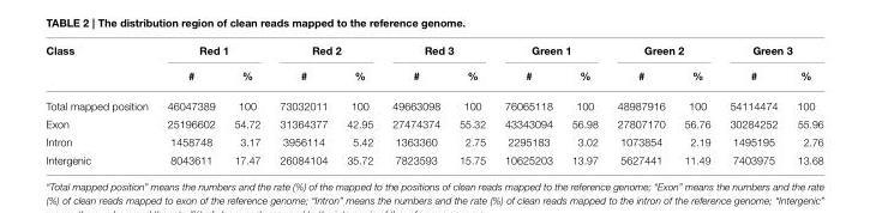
<table><thead><tr><td rowspan="2">Class</td><td colspan="2">Red 1</td><td colspan="2">Red 2</td><td colspan="2">Red 3</td><td colspan="2">Green 1</td><td colspan="2">Green 2</td><td colspan="2">Green 3</td></tr><tr><td>#</td><td>%</td><td>#</td><td>%</td><td>#</td><td>%</td><td>#</td><td>%</td><td>#</td><td>%</td><td>#</td><td>%</td></tr></thead><tbody><tr><td>Total mapped position</td><td>46047389</td><td>100</td><td>73032011</td><td>100</td><td>49663098</td><td>100</td><td>76065118</td><td>100</td><td>48987916</td><td>100</td><td>54114474</td><td>100</td></tr><tr><td>Exon</td><td>25196602</td><td>54.72</td><td>31364377</td><td>42.95</td><td>27474374</td><td>55.32</td><td>43343094</td><td>56.98</td><td>27807170</td><td>56.76</td><td>30284252</td><td>55.96</td></tr><tr><td>Intron</td><td>1458748</td><td>3.17</td><td>3956114</td><td>5.42</td><td>1363360</td><td>2.75</td><td>2295183</td><td>3.02</td><td>1073854</td><td>2.19</td><td>1495195</td><td>2.76</td></tr><tr><td>Intergenic</td><td>8043611</td><td>17.47</td><td>26084104</td><td>35.72</td><td>7823593</td><td>15.75</td><td>10625203</td><td>13.97</td><td>5627441</td><td>11.49</td><td>7403975</td><td>13.68</td></tr></tbody></table>